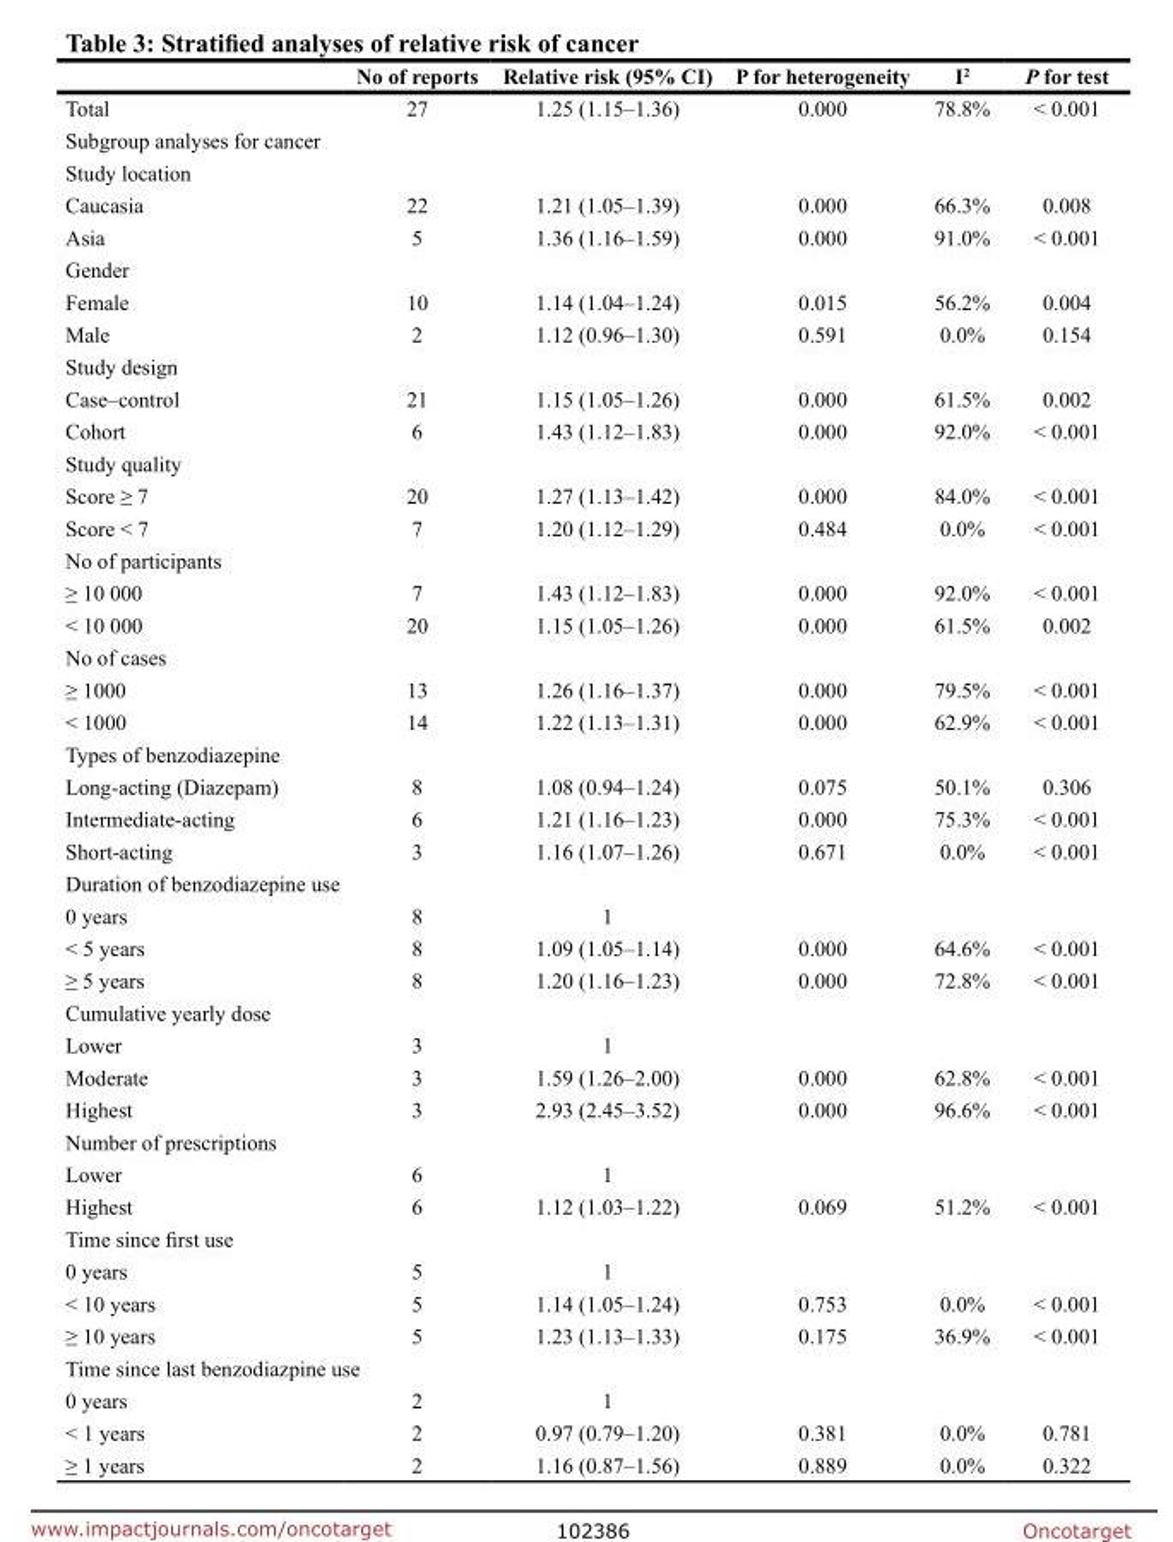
<table><thead><tr><td></td><td>No of reports</td><td>Relative risk (95% CI)</td><td>P for heterogeneity</td><td>I<sup>2</sup></td><td>P for test</td></tr></thead><tbody><tr><td>Total</td><td>27</td><td>1.25 (1.15–1.36)</td><td>0.000</td><td>78.8%</td><td>&lt; 0.001</td></tr><tr><td colspan="6">Subgroup analyses for cancer</td></tr><tr><td colspan="6">Study location</td></tr><tr><td>Caucasia</td><td>22</td><td>1.21 (1.05–1.39)</td><td>0.000</td><td>66.3%</td><td>0.008</td></tr><tr><td>Asia</td><td>5</td><td>1.36 (1.16–1.59)</td><td>0.000</td><td>91.0%</td><td>&lt; 0.001</td></tr><tr><td colspan="6">Gender</td></tr><tr><td>Female</td><td>10</td><td>1.14 (1.04–1.24)</td><td>0.015</td><td>56.2%</td><td>0.004</td></tr><tr><td>Male</td><td>2</td><td>1.12 (0.96–1.30)</td><td>0.591</td><td>0.0%</td><td>0.154</td></tr><tr><td colspan="6">Study design</td></tr><tr><td>Case–control</td><td>21</td><td>1.15 (1.05–1.26)</td><td>0.000</td><td>61.5%</td><td>0.002</td></tr><tr><td>Cohort</td><td>6</td><td>1.43 (1.12–1.83)</td><td>0.000</td><td>92.0%</td><td>&lt; 0.001</td></tr><tr><td colspan="6">Study quality</td></tr><tr><td>Score ≥ 7</td><td>20</td><td>1.27 (1.13–1.42)</td><td>0.000</td><td>84.0%</td><td>&lt; 0.001</td></tr><tr><td>Score &lt; 7</td><td>7</td><td>1.20 (1.12–1.29)</td><td>0.484</td><td>0.0%</td><td>&lt; 0.001</td></tr><tr><td colspan="6">No of participants</td></tr><tr><td>≥ 10 000</td><td>7</td><td>1.43 (1.12–1.83)</td><td>0.000</td><td>92.0%</td><td>&lt; 0.001</td></tr><tr><td>&lt; 10 000</td><td>20</td><td>1.15 (1.05–1.26)</td><td>0.000</td><td>61.5%</td><td>0.002</td></tr><tr><td colspan="6">No of cases</td></tr><tr><td>≥ 1000</td><td>13</td><td>1.26 (1.16–1.37)</td><td>0.000</td><td>79.5%</td><td>&lt; 0.001</td></tr><tr><td>&lt; 1000</td><td>14</td><td>1.22 (1.13–1.31)</td><td>0.000</td><td>62.9%</td><td>&lt; 0.001</td></tr><tr><td colspan="6">Types of benzodiazepine</td></tr><tr><td>Long-acting (Diazepam)</td><td>8</td><td>1.08 (0.94–1.24)</td><td>0.075</td><td>50.1%</td><td>0.306</td></tr><tr><td>Intermediate-acting</td><td>6</td><td>1.21 (1.16–1.23)</td><td>0.000</td><td>75.3%</td><td>&lt; 0.001</td></tr><tr><td>Short-acting</td><td>3</td><td>1.16 (1.07–1.26)</td><td>0.671</td><td>0.0%</td><td>&lt; 0.001</td></tr><tr><td colspan="6">Duration of benzodiazepine use</td></tr><tr><td>0 years</td><td>8</td><td>1</td><td></td><td></td><td></td></tr><tr><td>&lt; 5 years</td><td>8</td><td>1.09 (1.05–1.14)</td><td>0.000</td><td>64.6%</td><td>&lt; 0.001</td></tr><tr><td>≥ 5 years</td><td>8</td><td>1.20 (1.16–1.23)</td><td>0.000</td><td>72.8%</td><td>&lt; 0.001</td></tr><tr><td colspan="6">Cumulative yearly dose</td></tr><tr><td>Lower</td><td>3</td><td>1</td><td></td><td></td><td></td></tr><tr><td>Moderate</td><td>3</td><td>1.59 (1.26–2.00)</td><td>0.000</td><td>62.8%</td><td>&lt; 0.001</td></tr><tr><td>Highest</td><td>3</td><td>2.93 (2.45–3.52)</td><td>0.000</td><td>96.6%</td><td>&lt; 0.001</td></tr><tr><td colspan="6">Number of prescriptions</td></tr><tr><td>Lower</td><td>6</td><td>1</td><td></td><td></td><td></td></tr><tr><td>Highest</td><td>6</td><td>1.12 (1.03–1.22)</td><td>0.069</td><td>51.2%</td><td>&lt; 0.001</td></tr><tr><td colspan="6">Time since first use</td></tr><tr><td>0 years</td><td>5</td><td>1</td><td></td><td></td><td></td></tr><tr><td>&lt; 10 years</td><td>5</td><td>1.14 (1.05–1.24)</td><td>0.753</td><td>0.0%</td><td>&lt; 0.001</td></tr><tr><td>≥ 10 years</td><td>5</td><td>1.23 (1.13–1.33)</td><td>0.175</td><td>36.9%</td><td>&lt; 0.001</td></tr><tr><td colspan="6">Time since last benzodiazpine use</td></tr><tr><td>0 years</td><td>2</td><td>1</td><td></td><td></td><td></td></tr><tr><td>&lt; 1 years</td><td>2</td><td>0.97 (0.79–1.20)</td><td>0.381</td><td>0.0%</td><td>0.781</td></tr><tr><td>≥ 1 years</td><td>2</td><td>1.16 (0.87–1.56)</td><td>0.889</td><td>0.0%</td><td>0.322</td></tr></tbody></table>